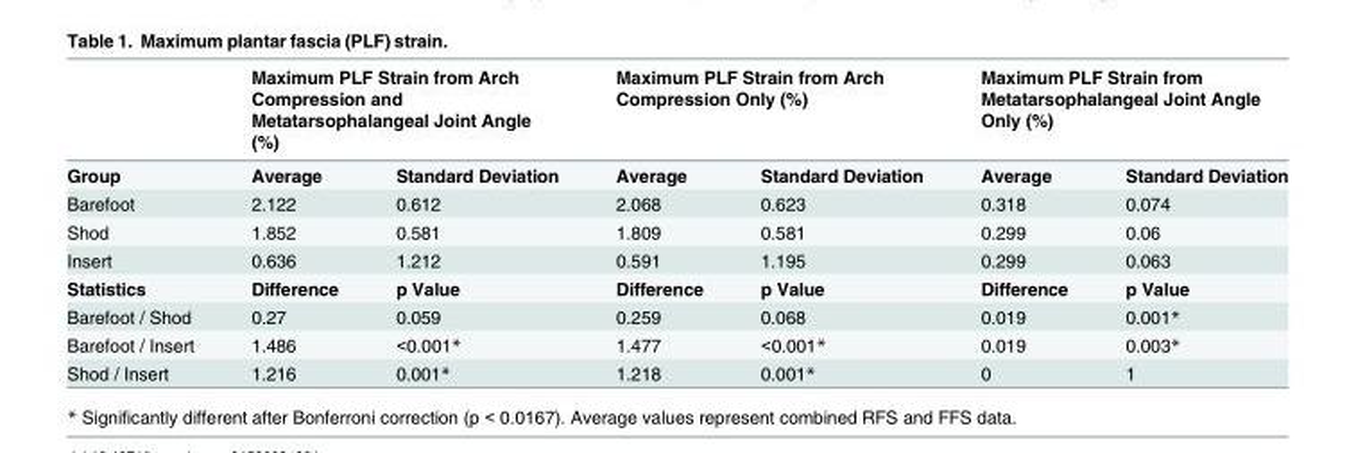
<table><thead><tr><td rowspan="2">Group</td><td colspan="2">Maximum PLF Strain from Arch Compression and Metatarsophalangeal Joint Angle (%)</td><td colspan="2">Maximum PLF Strain from Arch Compression Only (%)</td><td colspan="2">Maximum PLF Strain from Metatarsophalangeal Joint Angle Only (%)</td></tr><tr><td>Average</td><td>Standard Deviation</td><td>Average</td><td>Standard Deviation</td><td>Average</td><td>Standard Deviation</td></tr></thead><tbody><tr><td>Barefoot</td><td>2.122</td><td>0.612</td><td>2.068</td><td>0.623</td><td>0.318</td><td>0.074</td></tr><tr><td>Shod</td><td>1.852</td><td>0.581</td><td>1.809</td><td>0.581</td><td>0.299</td><td>0.06</td></tr><tr><td>Insert</td><td>0.636</td><td>1.212</td><td>0.591</td><td>1.195</td><td>0.299</td><td>0.063</td></tr><tr><td>Statistics</td><td>Difference</td><td>p Value</td><td>Difference</td><td>p Value</td><td>Difference</td><td>p Value</td></tr><tr><td>Barefoot / Shod</td><td>0.27</td><td>0.059</td><td>0.259</td><td>0.068</td><td>0.019</td><td>0.001*</td></tr><tr><td>Barefoot / Insert</td><td>1.486</td><td>&lt;0.001*</td><td>1.477</td><td>&lt;0.001*</td><td>0.019</td><td>0.003*</td></tr><tr><td>Shod / Insert</td><td>1.216</td><td>0.001*</td><td>1.218</td><td>0.001*</td><td>0</td><td>1</td></tr></tbody></table>